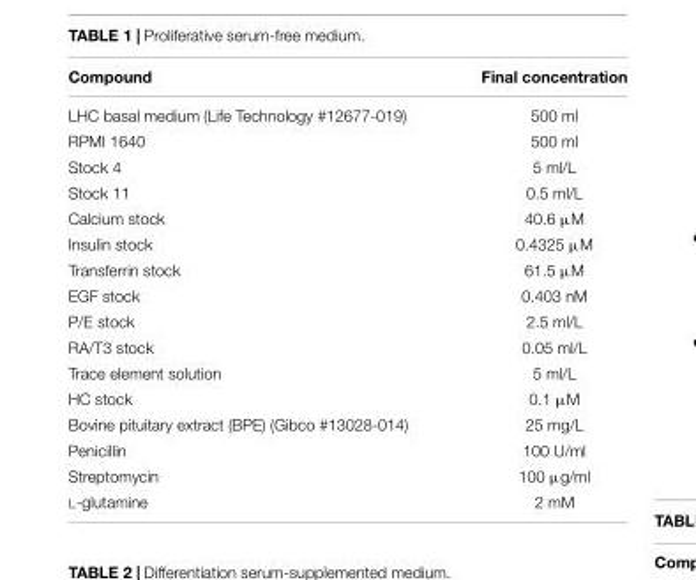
<table><thead><tr><td>Compound</td><td>Final concentration</td></tr></thead><tbody><tr><td>LHC basal medium (Life Technology #12677-019)</td><td>500 ml</td></tr><tr><td>RPMI 1640</td><td>500 ml</td></tr><tr><td>Stock 4</td><td>5 ml/L</td></tr><tr><td>Stock 11</td><td>0.5 ml/L</td></tr><tr><td>Calcium stock</td><td>40.6 µM</td></tr><tr><td>Insulin stock</td><td>0.4325 µM</td></tr><tr><td>Transferrin stock</td><td>61.5 µM</td></tr><tr><td>EGF stock</td><td>0.403 nM</td></tr><tr><td>P/E stock</td><td>2.5 ml/L</td></tr><tr><td>RA/T3 stock</td><td>0.05 ml/L</td></tr><tr><td>Trace element solution</td><td>5 ml/L</td></tr><tr><td>HC stock</td><td>0.1 µM</td></tr><tr><td>Bovine pituitary extract (BPE) (Gibco #13028-014)</td><td>25 mg/L</td></tr><tr><td>Penicillin</td><td>100 U/ml</td></tr><tr><td>Streptomycin</td><td>100 µg/ml</td></tr><tr><td>L-glutamine</td><td>2 mM</td></tr></tbody></table>